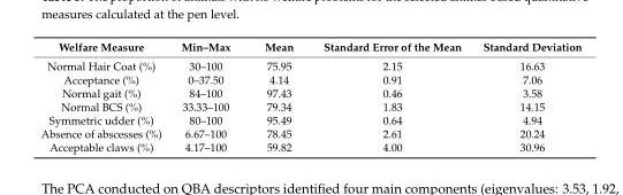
<table><thead><tr><td>Welfare Measure</td><td>Min–Max</td><td>Mean</td><td>Standard Error of the Mean</td><td>Standard Deviation</td></tr></thead><tbody><tr><td>Normal Hair Coat (%)</td><td>30–100</td><td>75.95</td><td>2.15</td><td>16.63</td></tr><tr><td>Acceptance (%)</td><td>0–37.50</td><td>4.14</td><td>0.91</td><td>7.06</td></tr><tr><td>Normal gait (%)</td><td>84–100</td><td>97.43</td><td>0.46</td><td>3.58</td></tr><tr><td>Normal BCS (%)</td><td>33.33–100</td><td>79.34</td><td>1.83</td><td>14.15</td></tr><tr><td>Symmetric udder (%)</td><td>80–100</td><td>95.49</td><td>0.64</td><td>4.94</td></tr><tr><td>Absence of abscesses (%)</td><td>6.67–100</td><td>78.45</td><td>2.61</td><td>20.24</td></tr><tr><td>Acceptable claws (%)</td><td>4.17–100</td><td>59.82</td><td>4.00</td><td>30.96</td></tr></tbody></table>